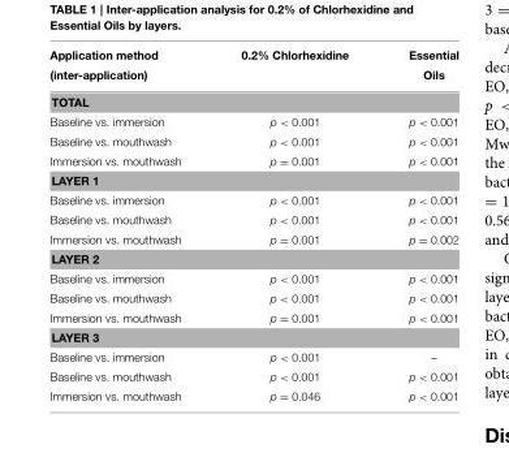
<table><thead><tr><td>Application method (inter-application)</td><td>0.2% Chlorhexidine</td><td>Essential Oils</td></tr></thead><tbody><tr><td colspan="3">TOTAL</td></tr><tr><td>Baseline vs. immersion</td><td>p &lt; 0.001</td><td>p &lt; 0.001</td></tr><tr><td>Baseline vs. mouthwash</td><td>p &lt; 0.001</td><td>p &lt; 0.001</td></tr><tr><td>Immersion vs. mouthwash</td><td>p = 0.001</td><td>p &lt; 0.001</td></tr><tr><td colspan="3">LAYER 1</td></tr><tr><td>Baseline vs. immersion</td><td>p &lt; 0.001</td><td>p &lt; 0.001</td></tr><tr><td>Baseline vs. mouthwash</td><td>p &lt; 0.001</td><td>p &lt; 0.001</td></tr><tr><td>Immersion vs. mouthwash</td><td>p = 0.001</td><td>p = 0.002</td></tr><tr><td colspan="3">LAYER 2</td></tr><tr><td>Baseline vs. immersion</td><td>p &lt; 0.001</td><td>p &lt; 0.001</td></tr><tr><td>Baseline vs. mouthwash</td><td>p &lt; 0.001</td><td>p &lt; 0.001</td></tr><tr><td>Immersion vs. mouthwash</td><td>p = 0.001</td><td>p &lt; 0.001</td></tr><tr><td colspan="3">LAYER 3</td></tr><tr><td>Baseline vs. immersion</td><td>p &lt; 0.001</td><td>–</td></tr><tr><td>Baseline vs. mouthwash</td><td>p &lt; 0.001</td><td>p &lt; 0.001</td></tr><tr><td>Immersion vs. mouthwash</td><td>p = 0.046</td><td>p &lt; 0.001</td></tr></tbody></table>